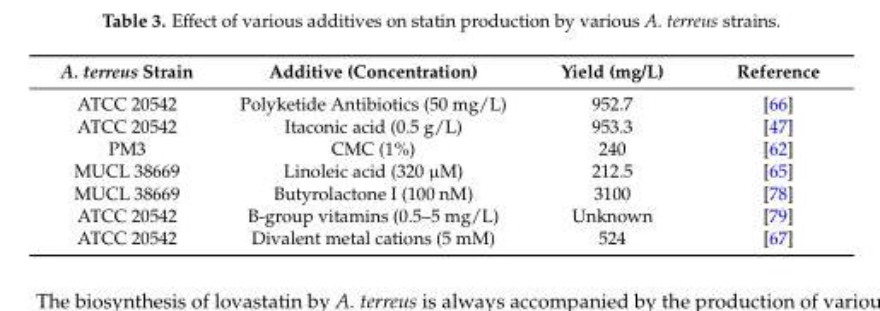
<table><thead><tr><td>A. terreus Strain</td><td>Additive (Concentration)</td><td>Yield (mg/L)</td><td>Reference</td></tr></thead><tbody><tr><td>ATCC 20542</td><td>Polyketide Antibiotics (50 mg/L)</td><td>952.7</td><td>[66]</td></tr><tr><td>ATCC 20542</td><td>Itaconic acid (0.5 g/L)</td><td>953.3</td><td>[47]</td></tr><tr><td>PM3</td><td>CMC (1%)</td><td>240</td><td>[62]</td></tr><tr><td>MUCL 38669</td><td>Linoleic acid (320 µM)</td><td>212.5</td><td>[65]</td></tr><tr><td>MUCL 38669</td><td>Butyrolactone I (100 nM)</td><td>3100</td><td>[78]</td></tr><tr><td>ATCC 20542</td><td>B-group vitamins (0.5–5 mg/L)</td><td>Unknown</td><td>[79]</td></tr><tr><td>ATCC 20542</td><td>Divalent metal cations (5 mM)</td><td>524</td><td>[67]</td></tr></tbody></table>